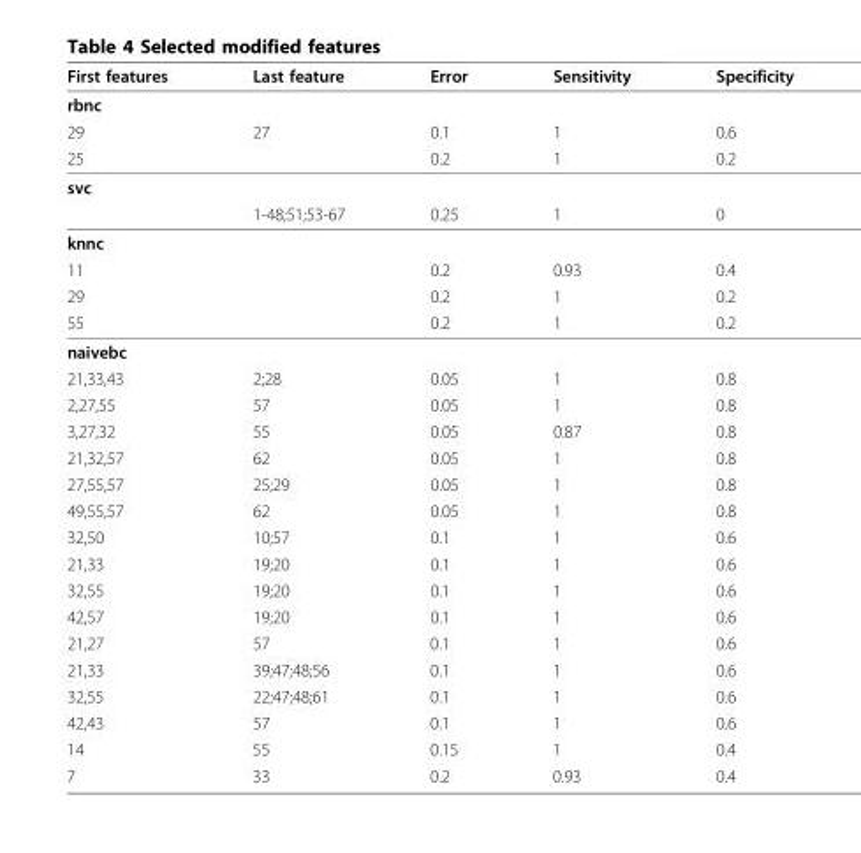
<table><thead><tr><td>First features</td><td>Last feature</td><td>Error</td><td>Sensitivity</td><td>Specificity</td></tr></thead><tbody><tr><td colspan="5">rbnc</td></tr><tr><td>29</td><td>27</td><td>0.1</td><td>1</td><td>0.6</td></tr><tr><td>25</td><td></td><td>0.2</td><td>1</td><td>0.2</td></tr><tr><td colspan="5">svc</td></tr><tr><td></td><td>1-48;51;53-67</td><td>0.25</td><td>1</td><td>0</td></tr><tr><td colspan="5">knnc</td></tr><tr><td>11</td><td></td><td>0.2</td><td>0.93</td><td>0.4</td></tr><tr><td>29</td><td></td><td>0.2</td><td>1</td><td>0.2</td></tr><tr><td>55</td><td></td><td>0.2</td><td>1</td><td>0.2</td></tr><tr><td colspan="5">naivebc</td></tr><tr><td>21,33,43</td><td>2;28</td><td>0.05</td><td>1</td><td>0.8</td></tr><tr><td>2,27,55</td><td>57</td><td>0.05</td><td>1</td><td>0.8</td></tr><tr><td>3,27,32</td><td>55</td><td>0.05</td><td>0.87</td><td>0.8</td></tr><tr><td>21,32,57</td><td>62</td><td>0.05</td><td>1</td><td>0.8</td></tr><tr><td>27,55,57</td><td>25;29</td><td>0.05</td><td>1</td><td>0.8</td></tr><tr><td>49,55,57</td><td>62</td><td>0.05</td><td>1</td><td>0.8</td></tr><tr><td>32,50</td><td>10;57</td><td>0.1</td><td>1</td><td>0.6</td></tr><tr><td>21,33</td><td>19;20</td><td>0.1</td><td>1</td><td>0.6</td></tr><tr><td>32,55</td><td>19;20</td><td>0.1</td><td>1</td><td>0.6</td></tr><tr><td>42,57</td><td>19;20</td><td>0.1</td><td>1</td><td>0.6</td></tr><tr><td>21,27</td><td>57</td><td>0.1</td><td>1</td><td>0.6</td></tr><tr><td>21,33</td><td>39;47;48;56</td><td>0.1</td><td>1</td><td>0.6</td></tr><tr><td>32,55</td><td>22;47;48;61</td><td>0.1</td><td>1</td><td>0.6</td></tr><tr><td>42,43</td><td>57</td><td>0.1</td><td>1</td><td>0.6</td></tr><tr><td>14</td><td>55</td><td>0.15</td><td>1</td><td>0.4</td></tr><tr><td>7</td><td>33</td><td>0.2</td><td>0.93</td><td>0.4</td></tr></tbody></table>